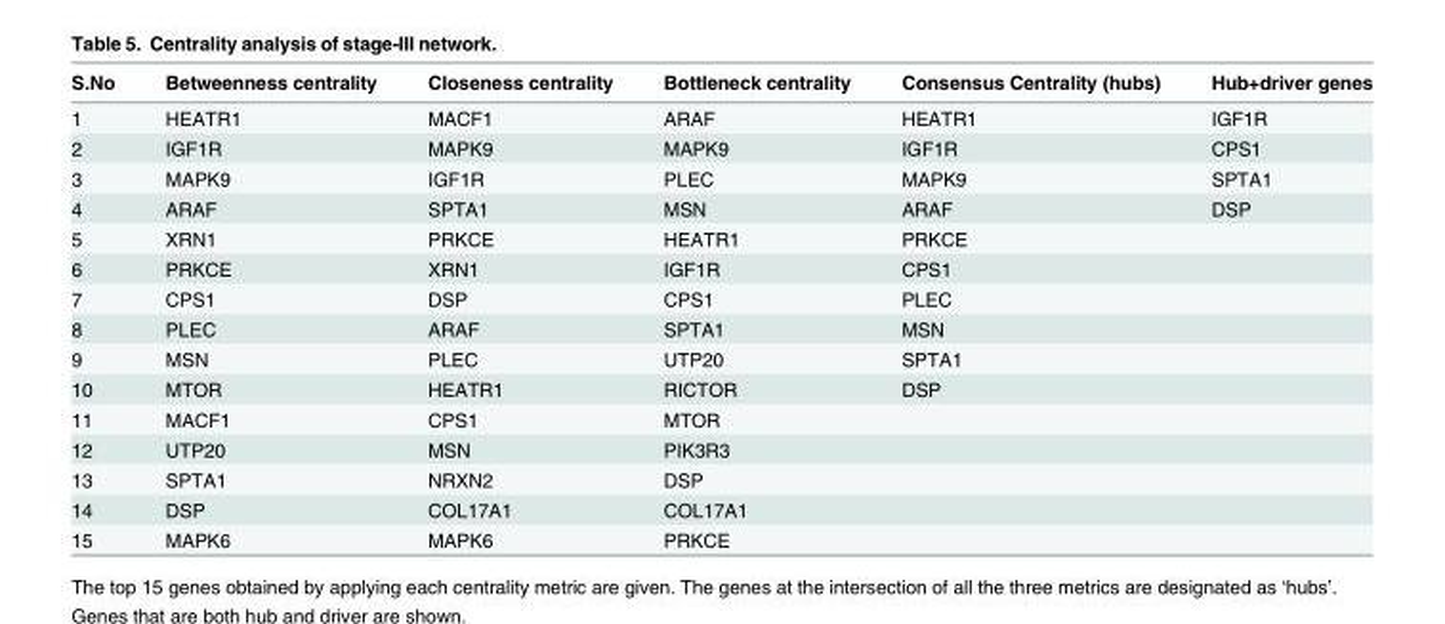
<table><thead><tr><td>S.No</td><td>Betweenness centrality</td><td>Closeness centrality</td><td>Bottleneck centrality</td><td>Consensus Centrality (hubs)</td><td>Hub+driver genes</td></tr></thead><tbody><tr><td>1</td><td>HEATR1</td><td>MACF1</td><td>ARAF</td><td>HEATR1</td><td>IGF1R</td></tr><tr><td>2</td><td>IGF1R</td><td>MAPK9</td><td>MAPK9</td><td>IGF1R</td><td>CPS1</td></tr><tr><td>3</td><td>MAPK9</td><td>IGF1R</td><td>PLEC</td><td>MAPK9</td><td>SPTA1</td></tr><tr><td>4</td><td>ARAF</td><td>SPTA1</td><td>MSN</td><td>ARAF</td><td>DSP</td></tr><tr><td>5</td><td>XRN1</td><td>PRKCE</td><td>HEATR1</td><td>PRKCE</td><td></td></tr><tr><td>6</td><td>PRKCE</td><td>XRN1</td><td>IGF1R</td><td>CPS1</td><td></td></tr><tr><td>7</td><td>CPS1</td><td>DSP</td><td>CPS1</td><td>PLEC</td><td></td></tr><tr><td>8</td><td>PLEC</td><td>ARAF</td><td>SPTA1</td><td>MSN</td><td></td></tr><tr><td>9</td><td>MSN</td><td>PLEC</td><td>UTP20</td><td>SPTA1</td><td></td></tr><tr><td>10</td><td>MTOR</td><td>HEATR1</td><td>RICTOR</td><td>DSP</td><td></td></tr><tr><td>11</td><td>MACF1</td><td>CPS1</td><td>MTOR</td><td></td><td></td></tr><tr><td>12</td><td>UTP20</td><td>MSN</td><td>PIK3R3</td><td></td><td></td></tr><tr><td>13</td><td>SPTA1</td><td>NRXN2</td><td>DSP</td><td></td><td></td></tr><tr><td>14</td><td>DSP</td><td>COL17A1</td><td>COL17A1</td><td></td><td></td></tr><tr><td>15</td><td>MAPK6</td><td>MAPK6</td><td>PRKCE</td><td></td><td></td></tr></tbody></table>